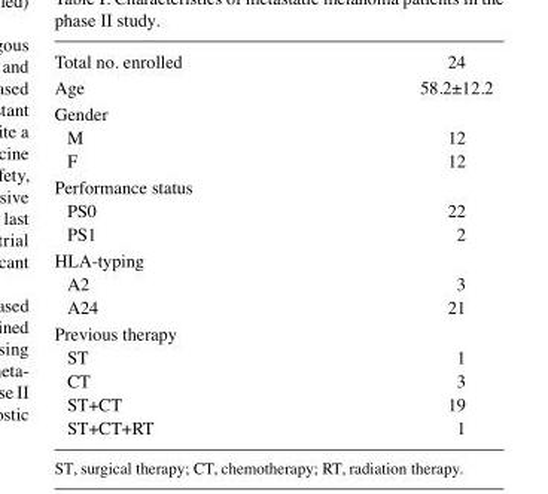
<table><tbody><tr><td>Total no. enrolled</td><td>24</td></tr><tr><td>Age</td><td>58.2±12.2</td></tr><tr><td colspan="2">Gender</td></tr><tr><td>M</td><td>12</td></tr><tr><td>F</td><td>12</td></tr><tr><td colspan="2">Performance status</td></tr><tr><td>PS0</td><td>22</td></tr><tr><td>PS1</td><td>2</td></tr><tr><td colspan="2">HLA-typing</td></tr><tr><td>A2</td><td>3</td></tr><tr><td>A24</td><td>21</td></tr><tr><td colspan="2">Previous therapy</td></tr><tr><td>ST</td><td>1</td></tr><tr><td>CT</td><td>3</td></tr><tr><td>ST+CT</td><td>19</td></tr><tr><td>ST+CT+RT</td><td>1</td></tr></tbody></table>